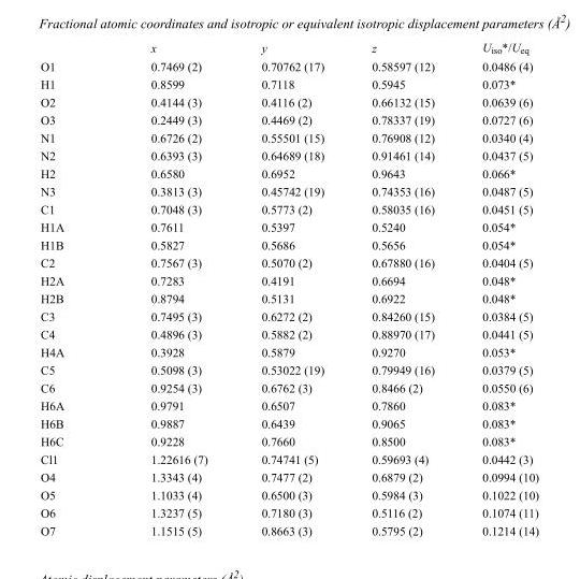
<table><thead><tr><td></td><td>x</td><td>y</td><td>z</td><td>U<sub>iso</sub>*/U<sub>eq</sub></td></tr></thead><tbody><tr><td>O1</td><td>0.7469 (2)</td><td>0.70762 (17)</td><td>0.58597 (12)</td><td>0.0486 (4)</td></tr><tr><td>H1</td><td>0.8599</td><td>0.7118</td><td>0.5945</td><td>0.073*</td></tr><tr><td>O2</td><td>0.4144 (3)</td><td>0.4116 (2)</td><td>0.66132 (15)</td><td>0.0639 (6)</td></tr><tr><td>O3</td><td>0.2449 (3)</td><td>0.4469 (2)</td><td>0.78337 (19)</td><td>0.0727 (6)</td></tr><tr><td>N1</td><td>0.6726 (2)</td><td>0.55501 (15)</td><td>0.76908 (12)</td><td>0.0340 (4)</td></tr><tr><td>N2</td><td>0.6393 (3)</td><td>0.64689 (18)</td><td>0.91461 (14)</td><td>0.0437 (5)</td></tr><tr><td>H2</td><td>0.6580</td><td>0.6952</td><td>0.9643</td><td>0.066*</td></tr><tr><td>N3</td><td>0.3813 (3)</td><td>0.45742 (19)</td><td>0.74353 (16)</td><td>0.0487 (5)</td></tr><tr><td>C1</td><td>0.7048 (3)</td><td>0.5773 (2)</td><td>0.58035 (16)</td><td>0.0451 (5)</td></tr><tr><td>H1A</td><td>0.7611</td><td>0.5397</td><td>0.5240</td><td>0.054*</td></tr><tr><td>H1B</td><td>0.5827</td><td>0.5686</td><td>0.5656</td><td>0.054*</td></tr><tr><td>C2</td><td>0.7567 (3)</td><td>0.5070 (2)</td><td>0.67880 (16)</td><td>0.0404 (5)</td></tr><tr><td>H2A</td><td>0.7283</td><td>0.4191</td><td>0.6694</td><td>0.048*</td></tr><tr><td>H2B</td><td>0.8794</td><td>0.5131</td><td>0.6922</td><td>0.048*</td></tr><tr><td>C3</td><td>0.7495 (3)</td><td>0.6272 (2)</td><td>0.84260 (15)</td><td>0.0384 (5)</td></tr><tr><td>C4</td><td>0.4896 (3)</td><td>0.5882 (2)</td><td>0.88970 (17)</td><td>0.0441 (5)</td></tr><tr><td>H4A</td><td>0.3928</td><td>0.5879</td><td>0.9270</td><td>0.053*</td></tr><tr><td>C5</td><td>0.5098 (3)</td><td>0.53022 (19)</td><td>0.79949 (16)</td><td>0.0379 (5)</td></tr><tr><td>C6</td><td>0.9254 (3)</td><td>0.6762 (3)</td><td>0.8466 (2)</td><td>0.0550 (6)</td></tr><tr><td>H6A</td><td>0.9791</td><td>0.6507</td><td>0.7860</td><td>0.083*</td></tr><tr><td>H6B</td><td>0.9887</td><td>0.6439</td><td>0.9065</td><td>0.083*</td></tr><tr><td>H6C</td><td>0.9228</td><td>0.7660</td><td>0.8500</td><td>0.083*</td></tr><tr><td>Cl1</td><td>1.22616 (7)</td><td>0.74741 (5)</td><td>0.59693 (4)</td><td>0.0442 (3)</td></tr><tr><td>O4</td><td>1.3343 (4)</td><td>0.7477 (2)</td><td>0.6879 (2)</td><td>0.0994 (10)</td></tr><tr><td>O5</td><td>1.1033 (4)</td><td>0.6500 (3)</td><td>0.5984 (3)</td><td>0.1022 (10)</td></tr><tr><td>O6</td><td>1.3237 (5)</td><td>0.7180 (3)</td><td>0.5116 (2)</td><td>0.1074 (11)</td></tr><tr><td>O7</td><td>1.1515 (5)</td><td>0.8663 (3)</td><td>0.5795 (2)</td><td>0.1214 (14)</td></tr></tbody></table>